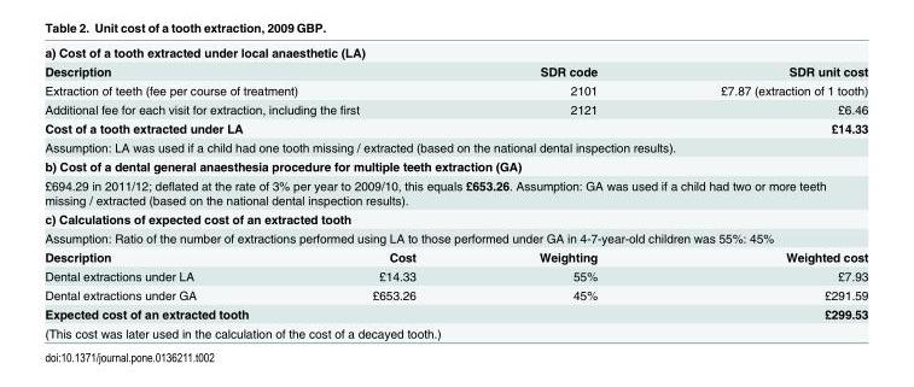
<table><tbody><tr><td colspan="4">a) Cost of a tooth extracted under local anaesthetic (LA)</td></tr><tr><td colspan="2">Description</td><td>SDR code</td><td>SDR unit cost</td></tr><tr><td colspan="2">Extraction of teeth (fee per course of treatment)</td><td>2101</td><td>£7.87 (extraction of 1 tooth)</td></tr><tr><td colspan="2">Additional fee for each visit for extraction, including the first</td><td>2121</td><td>£6.46</td></tr><tr><td colspan="2">Cost of a tooth extracted under LA</td><td></td><td>£14.33</td></tr><tr><td colspan="4">Assumption: LA was used if a child had one tooth missing / extracted (based on the national dental inspection results).</td></tr><tr><td colspan="4">b) Cost of a dental general anaesthesia procedure for multiple teeth extraction (GA)</td></tr><tr><td colspan="4">£694.29 in 2011/12; deflated at the rate of 3% per year to 2009/10, this equals £653.26. Assumption: GA was used if a child had two or more teeth missing / extracted (based on the national dental inspection results).</td></tr><tr><td colspan="4">c) Calculations of expected cost of an extracted tooth</td></tr><tr><td colspan="4">Assumption: Ratio of the number of extractions performed using LA to those performed under GA in 4-7-year-old children was 55%: 45%</td></tr><tr><td>Description</td><td>Cost</td><td>Weighting</td><td>Weighted cost</td></tr><tr><td>Dental extractions under LA</td><td>£14.33</td><td>55%</td><td>£7.93</td></tr><tr><td>Dental extractions under GA</td><td>£653.26</td><td>45%</td><td>£291.59</td></tr><tr><td>Expected cost of an extracted tooth</td><td></td><td></td><td>£299.53</td></tr><tr><td colspan="4">(This cost was later used in the calculation of the cost of a decayed tooth.)</td></tr></tbody></table>